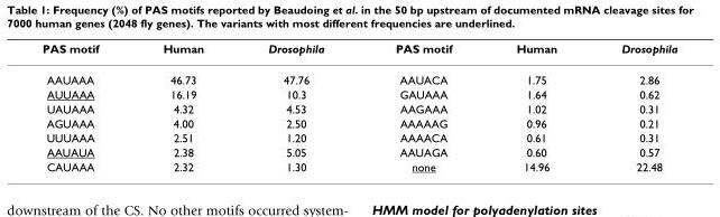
<table><thead><tr><td>PAS motif</td><td>Human</td><td>Drosophila</td><td>PAS motif</td><td>Human</td><td>Drosophila</td></tr></thead><tbody><tr><td>AAUAAA</td><td>46.73</td><td>47.76</td><td>AAUACA</td><td>1.75</td><td>2.86</td></tr><tr><td>AUUAAA</td><td>16.19</td><td>10.3</td><td>GAUAAA</td><td>1.64</td><td>0.62</td></tr><tr><td>UAUAAA</td><td>4.32</td><td>4.53</td><td>AAGAAA</td><td>1.02</td><td>0.31</td></tr><tr><td>AGUAAA</td><td>4.00</td><td>2.50</td><td>AAAAAG</td><td>0.96</td><td>0.21</td></tr><tr><td>UUUAAA</td><td>2.51</td><td>1.20</td><td>AAAACA</td><td>0.61</td><td>0.31</td></tr><tr><td>AAUAUA</td><td>2.38</td><td>5.05</td><td>AAUAGA</td><td>0.60</td><td>0.57</td></tr><tr><td>CAUAAA</td><td>2.32</td><td>1.30</td><td>none</td><td>14.96</td><td>22.48</td></tr></tbody></table>